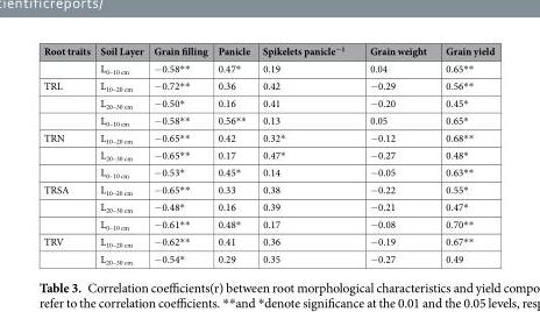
<table><thead><tr><td>Root traits</td><td>Soil Layer</td><td>Grain filling</td><td>Panicle</td><td>Spikelets panicle<sup>−1</sup></td><td>Grain weight</td><td>Grain yield</td></tr></thead><tbody><tr><td></td><td>L<sub>0–10 cm</sub></td><td>−0.58**</td><td>0.47*</td><td>0.19</td><td>0.04</td><td>0.65**</td></tr><tr><td rowspan="3">TRL</td><td>L<sub>10–20 cm</sub></td><td>−0.72**</td><td>0.36</td><td>0.42</td><td>−0.29</td><td>0.56**</td></tr><tr><td>L<sub>20–30 cm</sub></td><td>−0.50*</td><td>0.16</td><td>0.41</td><td>−0.20</td><td>0.45*</td></tr><tr><td>L<sub>0–10 cm</sub></td><td>−0.58**</td><td>0.56**</td><td>0.13</td><td>0.05</td><td>0.65*</td></tr><tr><td rowspan="3">TRN</td><td>L<sub>10–20 cm</sub></td><td>−0.65**</td><td>0.42</td><td>0.32*</td><td>−0.12</td><td>0.68**</td></tr><tr><td>L<sub>20–30 cm</sub></td><td>−0.65**</td><td>0.17</td><td>0.47*</td><td>−0.27</td><td>0.48*</td></tr><tr><td>L<sub>0–10 cm</sub></td><td>−0.53*</td><td>0.45*</td><td>0.14</td><td>−0.05</td><td>0.63**</td></tr><tr><td rowspan="3">TRSA</td><td>L<sub>10–20 cm</sub></td><td>−0.65**</td><td>0.33</td><td>0.38</td><td>−0.22</td><td>0.55*</td></tr><tr><td>L<sub>20–30 cm</sub></td><td>−0.48*</td><td>0.16</td><td>0.39</td><td>−0.21</td><td>0.47*</td></tr><tr><td>L<sub>0–10 cm</sub></td><td>−0.61**</td><td>0.48*</td><td>0.17</td><td>−0.08</td><td>0.70**</td></tr><tr><td rowspan="2">TRV</td><td>L<sub>10–20 cm</sub></td><td>−0.62**</td><td>0.41</td><td>0.36</td><td>−0.19</td><td>0.67**</td></tr><tr><td>L<sub>20–30 cm</sub></td><td>−0.54*</td><td>0.29</td><td>0.35</td><td>−0.27</td><td>0.49</td></tr></tbody></table>